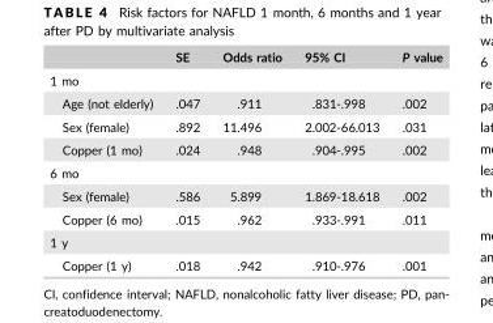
<table><thead><tr><td></td><td>SE</td><td>Odds ratio</td><td>95% CI</td><td>P value</td></tr></thead><tbody><tr><td colspan="5">1 mo</td></tr><tr><td>Age (not elderly)</td><td>.047</td><td>.911</td><td>.831-.998</td><td>.002</td></tr><tr><td>Sex (female)</td><td>.892</td><td>11.496</td><td>2.002-66.013</td><td>.031</td></tr><tr><td>Copper (1 mo)</td><td>.024</td><td>.948</td><td>.904-.995</td><td>.002</td></tr><tr><td colspan="5">6 mo</td></tr><tr><td>Sex (female)</td><td>.586</td><td>5.899</td><td>1.869-18.618</td><td>.002</td></tr><tr><td>Copper (6 mo)</td><td>.015</td><td>.962</td><td>.933-.991</td><td>.011</td></tr><tr><td colspan="5">1 y</td></tr><tr><td>Copper (1 y)</td><td>.018</td><td>.942</td><td>.910-.976</td><td>.001</td></tr></tbody></table>